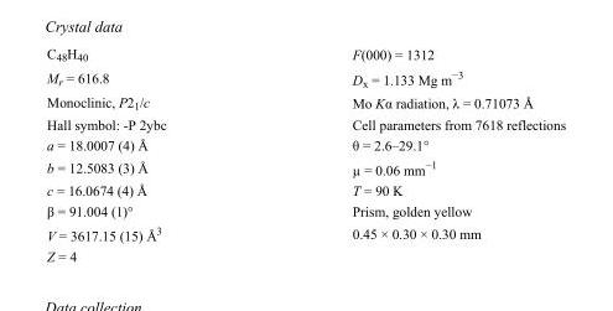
<table><tbody><tr><td>C<sub>48</sub>H<sub>40</sub></td><td>F(000) = 1312</td></tr><tr><td>M<sub>r</sub> = 616.8</td><td>D<sub>x</sub> = 1.133 Mg m<sup>−3</sup></td></tr><tr><td>Monoclinic, P2<sub>1</sub>/c</td><td>Mo Kα radiation, λ = 0.71073 Å</td></tr><tr><td>Hall symbol: -P 2ybc</td><td>Cell parameters from 7618 reflections</td></tr><tr><td>a = 18.0007 (4) Å</td><td>θ = 2.6–29.1°</td></tr><tr><td>b = 12.5083 (3) Å</td><td>µ = 0.06 mm<sup>−1</sup></td></tr><tr><td>c = 16.0674 (4) Å</td><td>T = 90 K</td></tr><tr><td>β = 91.004 (1)°</td><td>Prism, golden yellow</td></tr><tr><td>V = 3617.15 (15) Å<sup>3</sup></td><td>0.45 × 0.30 × 0.30 mm</td></tr><tr><td>Z = 4</td><td></td></tr></tbody></table>